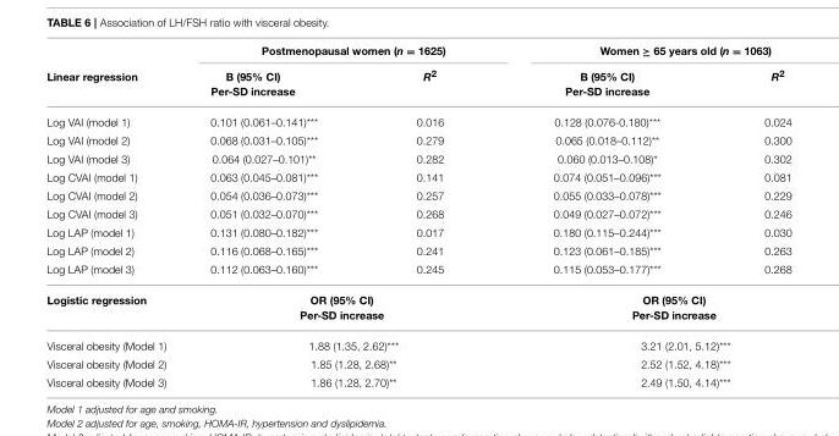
<table><thead><tr><td rowspan="2">Linear regression</td><td colspan="2">Postmenopausal women (n = 1625)</td><td colspan="2">Women ≥ 65 years old (n = 1063)</td></tr><tr><td>B (95% CI) Per-SD increase</td><td>R<sup>2</sup></td><td>B (95% CI) Per-SD increase</td><td>R<sup>2</sup></td></tr></thead><tbody><tr><td>Log VAI (model 1)</td><td>0.101 (0.061–0.141)***</td><td>0.016</td><td>0.128 (0.076-0.180)***</td><td>0.024</td></tr><tr><td>Log VAI (model 2)</td><td>0.068 (0.031–0.105)***</td><td>0.279</td><td>0.065 (0.018–0.112)**</td><td>0.300</td></tr><tr><td>Log VAI (model 3)</td><td>0.064 (0.027–0.101)**</td><td>0.282</td><td>0.060 (0.013–0.108)*</td><td>0.302</td></tr><tr><td>Log CVAI (model 1)</td><td>0.063 (0.045–0.081)***</td><td>0.141</td><td>0.074 (0.051–0.096)***</td><td>0.081</td></tr><tr><td>Log CVAI (model 2)</td><td>0.054 (0.036–0.073)***</td><td>0.257</td><td>0.055 (0.033–0.078)***</td><td>0.229</td></tr><tr><td>Log CVAI (model 3)</td><td>0.051 (0.032–0.070)***</td><td>0.268</td><td>0.049 (0.027–0.072)***</td><td>0.246</td></tr><tr><td>Log LAP (model 1)</td><td>0.131 (0.080–0.182)***</td><td>0.017</td><td>0.180 (0.115–0.244)***</td><td>0.030</td></tr><tr><td>Log LAP (model 2)</td><td>0.116 (0.068–0.165)***</td><td>0.241</td><td>0.123 (0.061–0.185)***</td><td>0.263</td></tr><tr><td>Log LAP (model 3)</td><td>0.112 (0.063–0.160)***</td><td>0.245</td><td>0.115 (0.053–0.177)***</td><td>0.268</td></tr><tr><td>Logistic regression</td><td colspan="2">OR (95% CI) Per-SD increase</td><td colspan="2">OR (95% CI) Per-SD increase</td></tr><tr><td>Visceral obesity (Model 1)</td><td colspan="2">1.88 (1.35, 2.62)***</td><td colspan="2">3.21 (2.01, 5.12)***</td></tr><tr><td>Visceral obesity (Model 2)</td><td colspan="2">1.85 (1.28, 2.68)**</td><td colspan="2">2.52 (1.52, 4.18)***</td></tr><tr><td>Visceral obesity (Model 3)</td><td colspan="2">1.86 (1.28, 2.70)**</td><td colspan="2">2.49 (1.50, 4.14)***</td></tr></tbody></table>